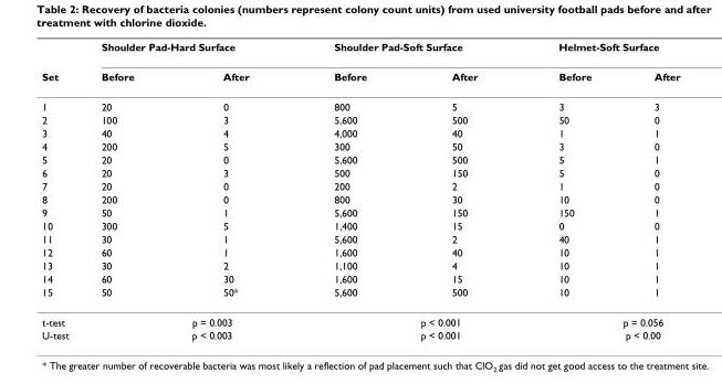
<table><thead><tr><td rowspan="2">Set</td><td colspan="2">Shoulder Pad-Hard Surface</td><td colspan="2">Shoulder Pad-Soft Surface</td><td colspan="2">Helmet-Soft Surface</td></tr><tr><td>Before</td><td>After</td><td>Before</td><td>After</td><td>Before</td><td>After</td></tr></thead><tbody><tr><td>1</td><td>20</td><td>0</td><td>800</td><td>5</td><td>3</td><td>3</td></tr><tr><td>2</td><td>100</td><td>3</td><td>5,600</td><td>500</td><td>50</td><td>0</td></tr><tr><td>3</td><td>40</td><td>4</td><td>4,000</td><td>40</td><td>1</td><td>1</td></tr><tr><td>4</td><td>200</td><td>5</td><td>300</td><td>50</td><td>3</td><td>0</td></tr><tr><td>5</td><td>20</td><td>0</td><td>5,600</td><td>500</td><td>5</td><td>1</td></tr><tr><td>6</td><td>20</td><td>3</td><td>500</td><td>150</td><td>5</td><td>0</td></tr><tr><td>7</td><td>20</td><td>0</td><td>200</td><td>2</td><td>1</td><td>0</td></tr><tr><td>8</td><td>200</td><td>0</td><td>800</td><td>30</td><td>10</td><td>0</td></tr><tr><td>9</td><td>50</td><td>1</td><td>5,600</td><td>150</td><td>150</td><td>1</td></tr><tr><td>10</td><td>300</td><td>5</td><td>1,400</td><td>15</td><td>0</td><td>0</td></tr><tr><td>11</td><td>30</td><td>1</td><td>5,600</td><td>2</td><td>40</td><td>1</td></tr><tr><td>12</td><td>60</td><td>1</td><td>1,600</td><td>40</td><td>10</td><td>1</td></tr><tr><td>13</td><td>30</td><td>2</td><td>1,100</td><td>4</td><td>10</td><td>1</td></tr><tr><td>14</td><td>60</td><td>30</td><td>1,600</td><td>15</td><td>10</td><td>1</td></tr><tr><td>15</td><td>50</td><td>50*</td><td>5,600</td><td>500</td><td>10</td><td>1</td></tr><tr><td>t-test</td><td colspan="2">p = 0.003</td><td colspan="2">p &lt; 0.001</td><td colspan="2">p = 0.056</td></tr><tr><td>U-test</td><td colspan="2">p &lt; 0.003</td><td colspan="2">p &lt; 0.001</td><td colspan="2">p &lt; 0.00</td></tr></tbody></table>